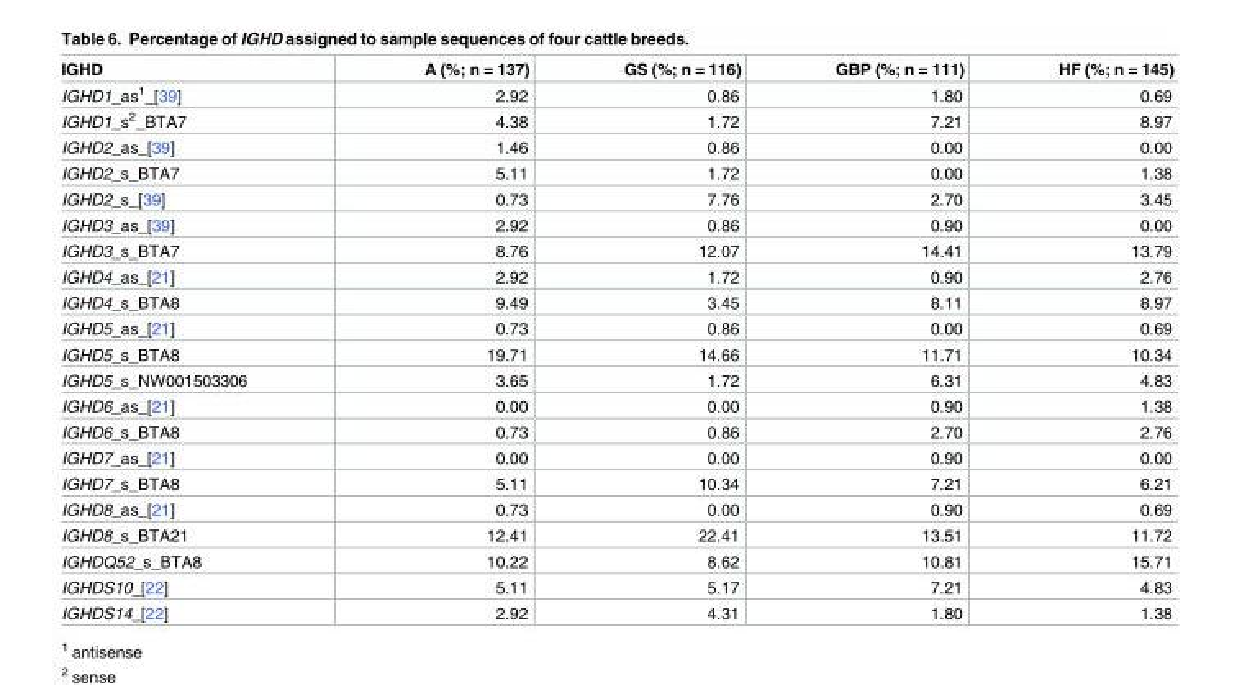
<table><thead><tr><td>IGHD</td><td>A (%; n = 137)</td><td>GS (%; n = 116)</td><td>GBP (%; n = 111)</td><td>HF (%; n = 145)</td></tr></thead><tbody><tr><td>IGHD1_as<sup>1</sup>_[39]</td><td>2.92</td><td>0.86</td><td>1.80</td><td>0.69</td></tr><tr><td>IGHD1_s<sup>2</sup>_BTA7</td><td>4.38</td><td>1.72</td><td>7.21</td><td>8.97</td></tr><tr><td>IGHD2_as_[39]</td><td>1.46</td><td>0.86</td><td>0.00</td><td>0.00</td></tr><tr><td>IGHD2_s_BTA7</td><td>5.11</td><td>1.72</td><td>0.00</td><td>1.38</td></tr><tr><td>IGHD2_s_[39]</td><td>0.73</td><td>7.76</td><td>2.70</td><td>3.45</td></tr><tr><td>IGHD3_as_[39]</td><td>2.92</td><td>0.86</td><td>0.90</td><td>0.00</td></tr><tr><td>IGHD3_s_BTA7</td><td>8.76</td><td>12.07</td><td>14.41</td><td>13.79</td></tr><tr><td>IGHD4_as_[21]</td><td>2.92</td><td>1.72</td><td>0.90</td><td>2.76</td></tr><tr><td>IGHD4_s_BTA8</td><td>9.49</td><td>3.45</td><td>8.11</td><td>8.97</td></tr><tr><td>IGHD5_as_[21]</td><td>0.73</td><td>0.86</td><td>0.00</td><td>0.69</td></tr><tr><td>IGHD5_s_BTA8</td><td>19.71</td><td>14.66</td><td>11.71</td><td>10.34</td></tr><tr><td>IGHD5_s_NW001503306</td><td>3.65</td><td>1.72</td><td>6.31</td><td>4.83</td></tr><tr><td>IGHD6_as_[21]</td><td>0.00</td><td>0.00</td><td>0.90</td><td>1.38</td></tr><tr><td>IGHD6_s_BTA8</td><td>0.73</td><td>0.86</td><td>2.70</td><td>2.76</td></tr><tr><td>IGHD7_as_[21]</td><td>0.00</td><td>0.00</td><td>0.90</td><td>0.00</td></tr><tr><td>IGHD7_s_BTA8</td><td>5.11</td><td>10.34</td><td>7.21</td><td>6.21</td></tr><tr><td>IGHD8_as_[21]</td><td>0.73</td><td>0.00</td><td>0.90</td><td>0.69</td></tr><tr><td>IGHD8_s_BTA21</td><td>12.41</td><td>22.41</td><td>13.51</td><td>11.72</td></tr><tr><td>IGHDQ52_s_BTA8</td><td>10.22</td><td>8.62</td><td>10.81</td><td>15.71</td></tr><tr><td>IGHDS10_[22]</td><td>5.11</td><td>5.17</td><td>7.21</td><td>4.83</td></tr><tr><td>IGHDS14_[22]</td><td>2.92</td><td>4.31</td><td>1.80</td><td>1.38</td></tr></tbody></table>